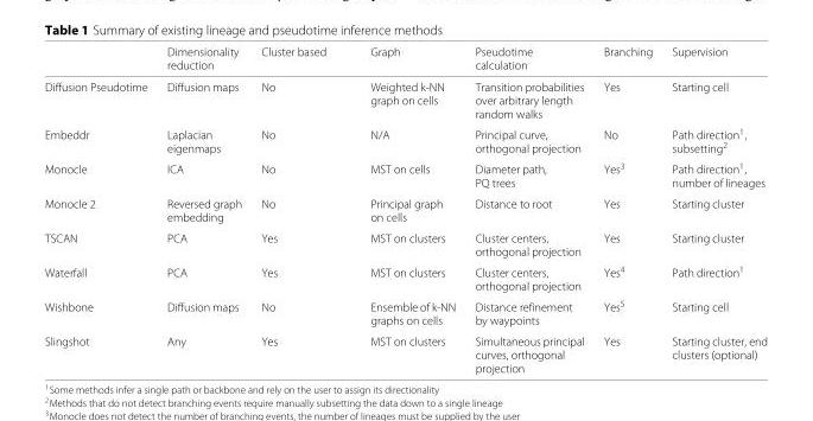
<table><thead><tr><td></td><td>Dimensionality reduction</td><td>Cluster based</td><td>Graph</td><td>Pseudotime calculation</td><td>Branching</td><td>Supervision</td></tr></thead><tbody><tr><td>Diffusion Pseudotime</td><td>Diffusion maps</td><td>No</td><td>Weighted k-NN graph on cells</td><td>Transition probabilities over arbitrary length random walks</td><td>Yes</td><td>Starting cell</td></tr><tr><td>Embeddr</td><td>Laplacian eigenmaps</td><td>No</td><td>N/A</td><td>Principal curve, orthogonal projection</td><td>No</td><td>Path direction<sup>1</sup>, subsetting<sup>2</sup></td></tr><tr><td>Monocle</td><td>ICA</td><td>No</td><td>MST on cells</td><td>Diameter path, PQ trees</td><td>Yes<sup>3</sup></td><td>Path direction<sup>1</sup>, number of lineages</td></tr><tr><td>Monocle 2</td><td>Reversed graph embedding</td><td>No</td><td>Principal graph on cells</td><td>Distance to root</td><td>Yes</td><td>Starting cluster</td></tr><tr><td>TSCAN</td><td>PCA</td><td>Yes</td><td>MST on clusters</td><td>Cluster centers, orthogonal projection</td><td>Yes</td><td>Starting cluster</td></tr><tr><td>Waterfall</td><td>PCA</td><td>Yes</td><td>MST on clusters</td><td>Cluster centers, orthogonal projection</td><td>Yes<sup>4</sup></td><td>Path direction<sup>1</sup></td></tr><tr><td>Wishbone</td><td>Diffusion maps</td><td>No</td><td>Ensemble of k-NN graphs on cells</td><td>Distance refinement by waypoints</td><td>Yes<sup>5</sup></td><td>Starting cell</td></tr><tr><td>Slingshot</td><td>Any</td><td>Yes</td><td>MST on clusters</td><td>Simultaneous principal curves, orthogonal projection</td><td>Yes</td><td>Starting cluster, end clusters (optional)</td></tr></tbody></table>